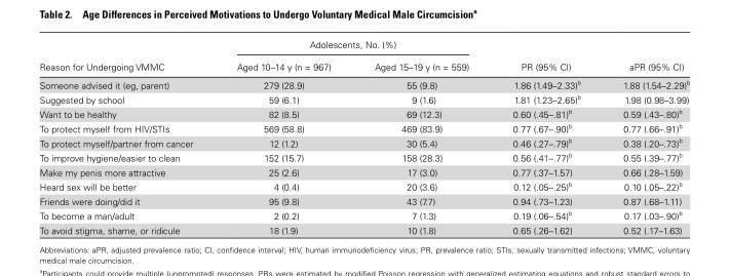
<table><thead><tr><td rowspan="2">Reason for Undergoing VMMC</td><td colspan="2">Adolescents, No. (%)</td><td rowspan="2">PR (95% CI)</td><td rowspan="2">aPR (95% CI)</td></tr><tr><td>Aged 10–14 y (n = 967)</td><td>Aged 15–19 y (n = 559)</td></tr></thead><tbody><tr><td>Someone advised it (eg, parent)</td><td>279 (28.9)</td><td>55 (9.8)</td><td>1.86 (1.49–2.33)<sup>b</sup></td><td>1.88 (1.54–2.29)<sup>b</sup></td></tr><tr><td>Suggested by school</td><td>59 (6.1)</td><td>9 (1.6)</td><td>1.81 (1.23–2.65)<sup>b</sup></td><td>1.98 (0.98–3.99)</td></tr><tr><td>Want to be healthy</td><td>82 (8.5)</td><td>69 (12.3)</td><td>0.60 (.45–.81)<sup>b</sup></td><td>0.59 (.43–.80)<sup>b</sup></td></tr><tr><td>To protect myself from HIV/STIs</td><td>569 (58.8)</td><td>469 (83.9)</td><td>0.77 (.67–.90)<sup>b</sup></td><td>0.77 (.66–.91)<sup>b</sup></td></tr><tr><td>To protect myself/partner from cancer</td><td>12 (1.2)</td><td>30 (5.4)</td><td>0.46 (.27–.79)<sup>b</sup></td><td>0.38 (.20–.73)<sup>b</sup></td></tr><tr><td>To improve hygiene/easier to clean</td><td>152 (15.7)</td><td>158 (28.3)</td><td>0.56 (.41–.77)<sup>b</sup></td><td>0.55 (.39–.77)<sup>b</sup></td></tr><tr><td>Make my penis more attractive</td><td>25 (2.6)</td><td>17 (3.0)</td><td>0.77 (.37–1.57)</td><td>0.66 (.28–1.59)</td></tr><tr><td>Heard sex will be better</td><td>4 (0.4)</td><td>20 (3.6)</td><td>0.12 (.05–.25)<sup>b</sup></td><td>0.10 (.05–.22)<sup>b</sup></td></tr><tr><td>Friends were doing/did it</td><td>95 (9.8)</td><td>43 (7.7)</td><td>0.94 (.73–1.23)</td><td>0.87 (.68–1.11)</td></tr><tr><td>To become a man/adult</td><td>2 (0.2)</td><td>7 (1.3)</td><td>0.19 (.06–.54)<sup>b</sup></td><td>0.17 (.03–.90)<sup>b</sup></td></tr><tr><td>To avoid stigma, shame, or ridicule</td><td>18 (1.9)</td><td>10 (1.8)</td><td>0.65 (.26–1.62)</td><td>0.52 (.17–1.63)</td></tr></tbody></table>